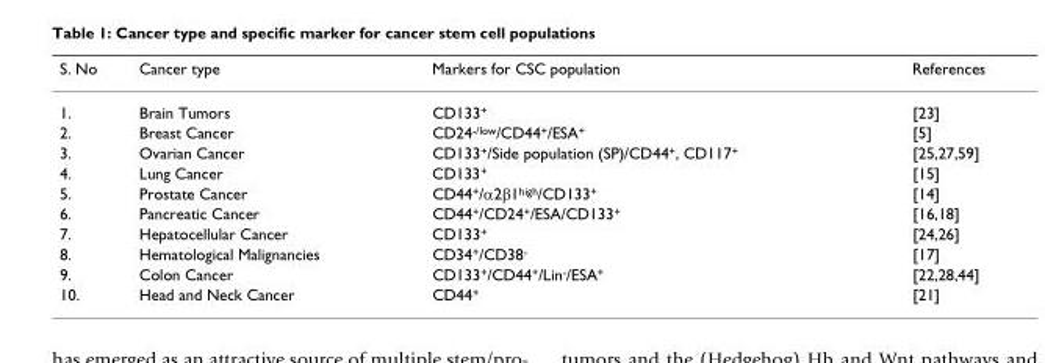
<table><thead><tr><td>S. No</td><td>Cancer type</td><td>Markers for CSC population</td><td>References</td></tr></thead><tbody><tr><td>1.</td><td>Brain Tumors</td><td>CD133<sup>+</sup></td><td>[23]</td></tr><tr><td>2.</td><td>Breast Cancer</td><td>CD24<sup>-/low</sup>/CD44<sup>+</sup>/ESA<sup>+</sup></td><td>[5]</td></tr><tr><td>3.</td><td>Ovarian Cancer</td><td>CD133<sup>+</sup>/Side population (SP)/CD44<sup>+</sup>, CD117<sup>+</sup></td><td>[25,27,59]</td></tr><tr><td>4.</td><td>Lung Cancer</td><td>CD133<sup>+</sup></td><td>[15]</td></tr><tr><td>5.</td><td>Prostate Cancer</td><td>CD44<sup>+</sup>/α2β1<sup>high</sup>/CD133<sup>+</sup></td><td>[14]</td></tr><tr><td>6.</td><td>Pancreatic Cancer</td><td>CD44<sup>+</sup>/CD24<sup>+</sup>/ESA/CD133<sup>+</sup></td><td>[16,18]</td></tr><tr><td>7.</td><td>Hepatocellular Cancer</td><td>CD133<sup>+</sup></td><td>[24,26]</td></tr><tr><td>8.</td><td>Hematological Malignancies</td><td>CD34<sup>+</sup>/CD38<sup>-</sup></td><td>[17]</td></tr><tr><td>9.</td><td>Colon Cancer</td><td>CD133<sup>+</sup>/CD44<sup>+</sup>/Lin<sup>-</sup>/ESA<sup>+</sup></td><td>[22,28,44]</td></tr><tr><td>10.</td><td>Head and Neck Cancer</td><td>CD44<sup>+</sup></td><td>[21]</td></tr></tbody></table>